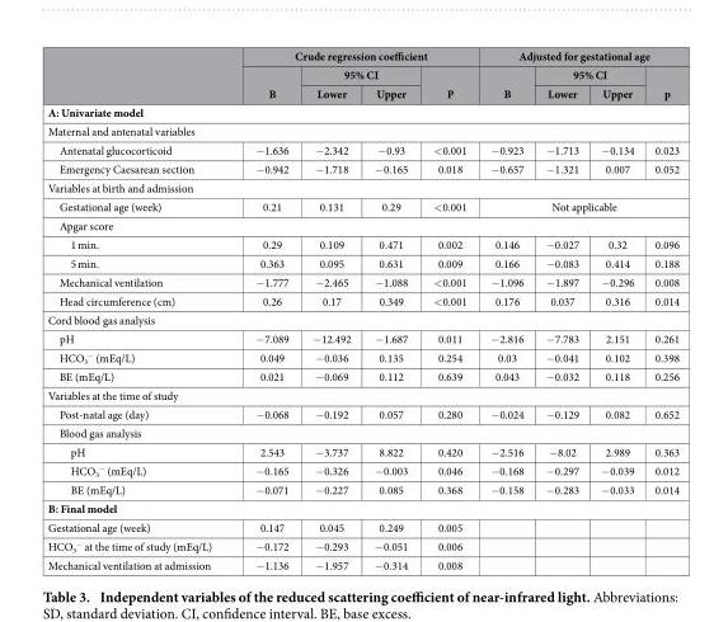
<table><thead><tr><td rowspan="3"></td><td colspan="4">Crude regression coefficient</td><td colspan="4">Adjusted for gestational age</td></tr><tr><td rowspan="2">B</td><td colspan="2">95% CI</td><td rowspan="2">P</td><td rowspan="2">B</td><td colspan="2">95% CI</td><td rowspan="2">p</td></tr><tr><td>Lower</td><td>Upper</td><td>Lower</td><td>Upper</td></tr></thead><tbody><tr><td colspan="9">A: Univariate model</td></tr><tr><td colspan="9">Maternal and antenatal variables</td></tr><tr><td>Antenatal glucocorticoid</td><td>− 1.636</td><td>− 2.342</td><td>− 0.93</td><td>&lt; 0.001</td><td>− 0.923</td><td>− 1.713</td><td>− 0.134</td><td>0.023</td></tr><tr><td>Emergency Caesarean section</td><td>− 0.942</td><td>− 1.718</td><td>− 0.165</td><td>0.018</td><td>− 0.657</td><td>− 1.321</td><td>0.007</td><td>0.052</td></tr><tr><td colspan="9">Variables at birth and admission</td></tr><tr><td>Gestational age (week)</td><td>0.21</td><td>0.131</td><td>0.29</td><td>&lt; 0.001</td><td colspan="4">Not applicable</td></tr><tr><td colspan="9">Apgar score</td></tr><tr><td>1 min.</td><td>0.29</td><td>0.109</td><td>0.471</td><td>0.002</td><td>0.146</td><td>− 0.027</td><td>0.32</td><td>0.096</td></tr><tr><td>5 min.</td><td>0.363</td><td>0.095</td><td>0.631</td><td>0.009</td><td>0.166</td><td>− 0.083</td><td>0.414</td><td>0.188</td></tr><tr><td>Mechanical ventilation</td><td>− 1.777</td><td>− 2.465</td><td>− 1.088</td><td>&lt; 0.001</td><td>− 1.096</td><td>− 1.897</td><td>− 0.296</td><td>0.008</td></tr><tr><td>Head circumference (cm)</td><td>0.26</td><td>0.17</td><td>0.349</td><td>&lt; 0.001</td><td>0.176</td><td>0.037</td><td>0.316</td><td>0.014</td></tr><tr><td colspan="9">Cord blood gas analysis</td></tr><tr><td>pH</td><td>− 7.089</td><td>− 12.492</td><td>− 1.687</td><td>0.011</td><td>− 2.816</td><td>− 7.783</td><td>2.151</td><td>0.261</td></tr><tr><td>HCO<sub>3</sub> <sup>−</sup> (mEq/L)</td><td>0.049</td><td>− 0.036</td><td>0.135</td><td>0.254</td><td>0.03</td><td>− 0.041</td><td>0.102</td><td>0.398</td></tr><tr><td>BE (mEq/L)</td><td>0.021</td><td>− 0.069</td><td>0.112</td><td>0.639</td><td>0.043</td><td>− 0.032</td><td>0.118</td><td>0.256</td></tr><tr><td colspan="9">Variables at the time of study</td></tr><tr><td>Post-natal age (day)</td><td>− 0.068</td><td>− 0.192</td><td>0.057</td><td>0.280</td><td>− 0.024</td><td>− 0.129</td><td>0.082</td><td>0.652</td></tr><tr><td colspan="9">Blood gas analysis</td></tr><tr><td>pH</td><td>2.543</td><td>− 3.737</td><td>8.822</td><td>0.420</td><td>− 2.516</td><td>− 8.02</td><td>2.989</td><td>0.363</td></tr><tr><td>HCO<sub>3</sub> <sup>−</sup> (mEq/L)</td><td>− 0.165</td><td>− 0.326</td><td>− 0.003</td><td>0.046</td><td>− 0.168</td><td>− 0.297</td><td>− 0.039</td><td>0.012</td></tr><tr><td>BE (mEq/L)</td><td>− 0.071</td><td>− 0.227</td><td>0.085</td><td>0.368</td><td>− 0.158</td><td>− 0.283</td><td>− 0.033</td><td>0.014</td></tr><tr><td colspan="9">B: Final model</td></tr><tr><td>Gestational age (week)</td><td>0.147</td><td>0.045</td><td>0.249</td><td>0.005</td><td></td><td></td><td></td><td></td></tr><tr><td>HCO<sub>3</sub> <sup>−</sup> at the time of study (mEq/L)</td><td>− 0.172</td><td>− 0.293</td><td>− 0.051</td><td>0.006</td><td></td><td></td><td></td><td></td></tr><tr><td>Mechanical ventilation at admission</td><td>− 1.136</td><td>− 1.957</td><td>− 0.314</td><td>0.008</td><td></td><td></td><td></td><td></td></tr></tbody></table>